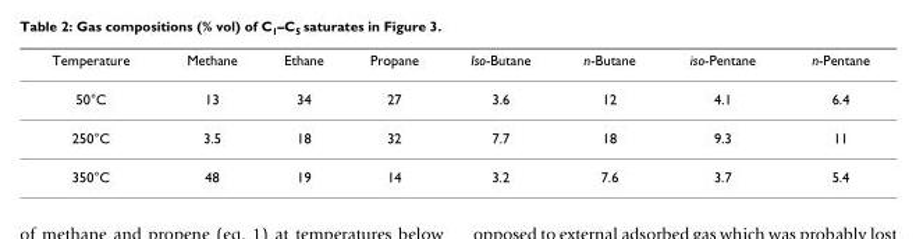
<table><thead><tr><td>Temperature</td><td>Methane</td><td>Ethane</td><td>Propane</td><td>Iso-Butane</td><td>n-Butane</td><td>iso-Pentane</td><td>n-Pentane</td></tr></thead><tbody><tr><td>50°C</td><td>13</td><td>34</td><td>27</td><td>3.6</td><td>12</td><td>4.1</td><td>6.4</td></tr><tr><td>250°C</td><td>3.5</td><td>18</td><td>32</td><td>7.7</td><td>18</td><td>9.3</td><td>11</td></tr><tr><td>350°C</td><td>48</td><td>19</td><td>14</td><td>3.2</td><td>7.6</td><td>3.7</td><td>5.4</td></tr></tbody></table>